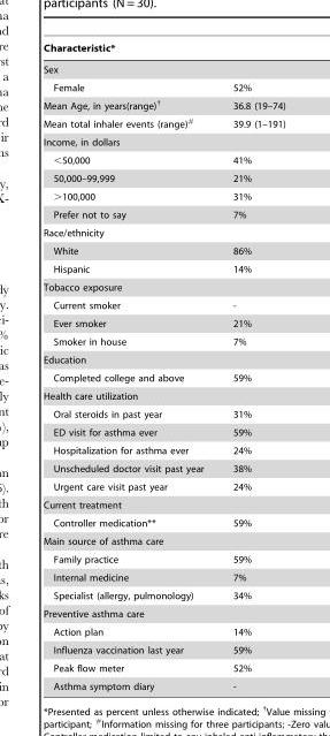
<table><thead><tr><td colspan="2">Characteristic*</td></tr><tr><td>Sex</td><td></td></tr></thead><tbody><tr><td>Female</td><td>52%</td></tr><tr><td>Mean Age, in years(range)<sup>†</sup></td><td>36.8 (19–74)</td></tr><tr><td>Mean total inhaler events (range)<sup>#</sup></td><td>39.9 (1–191)</td></tr><tr><td colspan="2">Income, in dollars</td></tr><tr><td>&lt;50,000</td><td>41%</td></tr><tr><td>50,000–99,999</td><td>21%</td></tr><tr><td>&gt;100,000</td><td>31%</td></tr><tr><td>Prefer not to say</td><td>7%</td></tr><tr><td colspan="2">Race/ethnicity</td></tr><tr><td>White</td><td>86%</td></tr><tr><td>Hispanic</td><td>14%</td></tr><tr><td colspan="2">Tobacco exposure</td></tr><tr><td>Current smoker</td><td>-</td></tr><tr><td>Ever smoker</td><td>21%</td></tr><tr><td>Smoker in house</td><td>7%</td></tr><tr><td colspan="2">Education</td></tr><tr><td>Completed college and above</td><td>59%</td></tr><tr><td colspan="2">Health care utilization</td></tr><tr><td>Oral steroids in past year</td><td>31%</td></tr><tr><td>ED visit for asthma ever</td><td>59%</td></tr><tr><td>Hospitalization for asthma ever</td><td>24%</td></tr><tr><td>Unscheduled doctor visit past year</td><td>38%</td></tr><tr><td>Urgent care visit past year</td><td>24%</td></tr><tr><td colspan="2">Current treatment</td></tr><tr><td>Controller medication**</td><td>59%</td></tr><tr><td colspan="2">Main source of asthma care</td></tr><tr><td>Family practice</td><td>59%</td></tr><tr><td>Internal medicine</td><td>7%</td></tr><tr><td>Specialist (allergy, pulmonology)</td><td>34%</td></tr><tr><td colspan="2">Preventive asthma care</td></tr><tr><td>Action plan</td><td>14%</td></tr><tr><td>Influenza vaccination last year</td><td>59%</td></tr><tr><td>Peak flow meter</td><td>52%</td></tr><tr><td>Asthma symptom diary</td><td>-</td></tr></tbody></table>